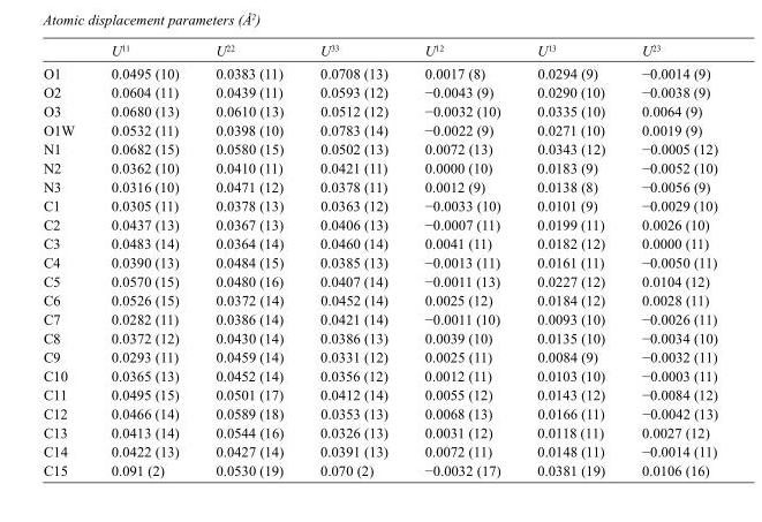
<table><thead><tr><td></td><td>U<sup>11</sup></td><td>U<sup>22</sup></td><td>U<sup>33</sup></td><td>U<sup>12</sup></td><td>U<sup>13</sup></td><td>U<sup>23</sup></td></tr></thead><tbody><tr><td>O1</td><td>0.0495 (10)</td><td>0.0383 (11)</td><td>0.0708 (13)</td><td>0.0017 (8)</td><td>0.0294 (9)</td><td>−0.0014 (9)</td></tr><tr><td>O2</td><td>0.0604 (11)</td><td>0.0439 (11)</td><td>0.0593 (12)</td><td>−0.0043 (9)</td><td>0.0290 (10)</td><td>−0.0038 (9)</td></tr><tr><td>O3</td><td>0.0680 (13)</td><td>0.0610 (13)</td><td>0.0512 (12)</td><td>−0.0032 (10)</td><td>0.0335 (10)</td><td>0.0064 (9)</td></tr><tr><td>O1W</td><td>0.0532 (11)</td><td>0.0398 (10)</td><td>0.0783 (14)</td><td>−0.0022 (9)</td><td>0.0271 (10)</td><td>0.0019 (9)</td></tr><tr><td>N1</td><td>0.0682 (15)</td><td>0.0580 (15)</td><td>0.0502 (13)</td><td>0.0072 (13)</td><td>0.0343 (12)</td><td>−0.0005 (12)</td></tr><tr><td>N2</td><td>0.0362 (10)</td><td>0.0410 (11)</td><td>0.0421 (11)</td><td>0.0000 (10)</td><td>0.0183 (9)</td><td>−0.0052 (10)</td></tr><tr><td>N3</td><td>0.0316 (10)</td><td>0.0471 (12)</td><td>0.0378 (11)</td><td>0.0012 (9)</td><td>0.0138 (8)</td><td>−0.0056 (9)</td></tr><tr><td>C1</td><td>0.0305 (11)</td><td>0.0378 (13)</td><td>0.0363 (12)</td><td>−0.0033 (10)</td><td>0.0101 (9)</td><td>−0.0029 (10)</td></tr><tr><td>C2</td><td>0.0437 (13)</td><td>0.0367 (13)</td><td>0.0406 (13)</td><td>−0.0007 (11)</td><td>0.0199 (11)</td><td>0.0026 (10)</td></tr><tr><td>C3</td><td>0.0483 (14)</td><td>0.0364 (14)</td><td>0.0460 (14)</td><td>0.0041 (11)</td><td>0.0182 (12)</td><td>0.0000 (11)</td></tr><tr><td>C4</td><td>0.0390 (13)</td><td>0.0484 (15)</td><td>0.0385 (13)</td><td>−0.0013 (11)</td><td>0.0161 (11)</td><td>−0.0050 (11)</td></tr><tr><td>C5</td><td>0.0570 (15)</td><td>0.0480 (16)</td><td>0.0407 (14)</td><td>−0.0011 (13)</td><td>0.0227 (12)</td><td>0.0104 (12)</td></tr><tr><td>C6</td><td>0.0526 (15)</td><td>0.0372 (14)</td><td>0.0452 (14)</td><td>0.0025 (12)</td><td>0.0184 (12)</td><td>0.0028 (11)</td></tr><tr><td>C7</td><td>0.0282 (11)</td><td>0.0386 (14)</td><td>0.0421 (14)</td><td>−0.0011 (10)</td><td>0.0093 (10)</td><td>−0.0026 (11)</td></tr><tr><td>C8</td><td>0.0372 (12)</td><td>0.0430 (14)</td><td>0.0386 (13)</td><td>0.0039 (10)</td><td>0.0135 (10)</td><td>−0.0034 (10)</td></tr><tr><td>C9</td><td>0.0293 (11)</td><td>0.0459 (14)</td><td>0.0331 (12)</td><td>0.0025 (11)</td><td>0.0084 (9)</td><td>−0.0032 (11)</td></tr><tr><td>C10</td><td>0.0365 (13)</td><td>0.0452 (14)</td><td>0.0356 (12)</td><td>0.0012 (11)</td><td>0.0103 (10)</td><td>−0.0003 (11)</td></tr><tr><td>C11</td><td>0.0495 (15)</td><td>0.0501 (17)</td><td>0.0412 (14)</td><td>0.0055 (12)</td><td>0.0143 (12)</td><td>−0.0084 (12)</td></tr><tr><td>C12</td><td>0.0466 (14)</td><td>0.0589 (18)</td><td>0.0353 (13)</td><td>0.0068 (13)</td><td>0.0166 (11)</td><td>−0.0042 (13)</td></tr><tr><td>C13</td><td>0.0413 (14)</td><td>0.0544 (16)</td><td>0.0326 (13)</td><td>0.0031 (12)</td><td>0.0118 (11)</td><td>0.0027 (12)</td></tr><tr><td>C14</td><td>0.0422 (13)</td><td>0.0427 (14)</td><td>0.0391 (13)</td><td>0.0072 (11)</td><td>0.0148 (11)</td><td>−0.0014 (11)</td></tr><tr><td>C15</td><td>0.091 (2)</td><td>0.0530 (19)</td><td>0.070 (2)</td><td>−0.0032 (17)</td><td>0.0381 (19)</td><td>0.0106 (16)</td></tr></tbody></table>